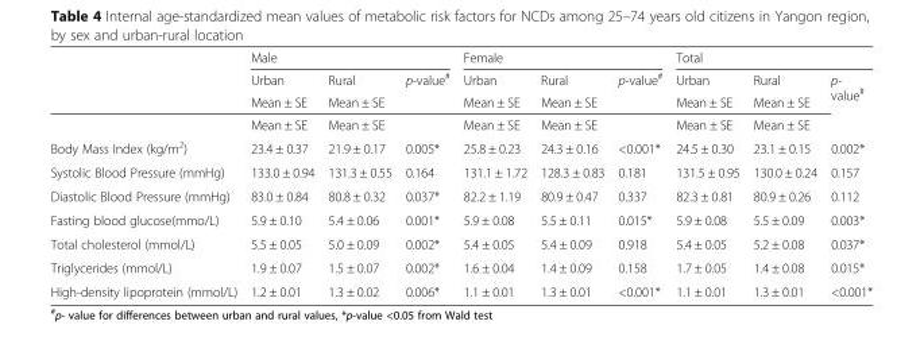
<table><thead><tr><td rowspan="3"></td><td colspan="3">Male</td><td colspan="3">Female</td><td colspan="3">Total</td></tr><tr><td rowspan="2">Urban Mean ± SE</td><td rowspan="2">Rural Mean ± SE</td><td rowspan="2">p-value<sup>#</sup></td><td rowspan="2">Urban Mean ± SE</td><td rowspan="2">Rural Mean ± SE</td><td rowspan="2">p-value<sup>#</sup></td><td rowspan="2">Urban Mean ± SE</td><td rowspan="2">Rural Mean ± SE</td><td rowspan="2">p- value<sup>#</sup></td></tr><tr></tr></thead><tbody><tr><td></td><td>Mean ± SE</td><td>Mean ± SE</td><td></td><td>Mean ± SE</td><td>Mean ± SE</td><td></td><td>Mean ± SE</td><td>Mean ± SE</td><td></td></tr><tr><td>Body Mass Index (kg/m<sup>2</sup>)</td><td>23.4 ± 0.37</td><td>21.9 ± 0.17</td><td>0.005*</td><td>25.8 ± 0.23</td><td>24.3 ± 0.16</td><td>&lt;0.001*</td><td>24.5 ± 0.30</td><td>23.1 ± 0.15</td><td>0.002*</td></tr><tr><td>Systolic Blood Pressure (mmHg)</td><td>133.0 ± 0.94</td><td>131.3 ± 0.55</td><td>0.164</td><td>131.1 ± 1.72</td><td>128.3 ± 0.83</td><td>0.181</td><td>131.5 ± 0.95</td><td>130.0 ± 0.24</td><td>0.157</td></tr><tr><td>Diastolic Blood Pressure (mmHg)</td><td>83.0 ± 0.84</td><td>80.8 ± 0.32</td><td>0.037*</td><td>82.2 ± 1.19</td><td>80.9 ± 0.47</td><td>0.337</td><td>82.3 ± 0.81</td><td>80.9 ± 0.26</td><td>0.112</td></tr><tr><td>Fasting blood glucose(mmo/L)</td><td>5.9 ± 0.10</td><td>5.4 ± 0.06</td><td>0.001*</td><td>5.9 ± 0.08</td><td>5.5 ± 0.11</td><td>0.015*</td><td>5.9 ± 0.08</td><td>5.5 ± 0.09</td><td>0.003*</td></tr><tr><td>Total cholesterol (mmol/L)</td><td>5.5 ± 0.05</td><td>5.0 ± 0.09</td><td>0.002*</td><td>5.4 ± 0.05</td><td>5.4 ± 0.09</td><td>0.918</td><td>5.4 ± 0.05</td><td>5.2 ± 0.08</td><td>0.037*</td></tr><tr><td>Triglycerides (mmol/L)</td><td>1.9 ± 0.07</td><td>1.5 ± 0.07</td><td>0.002*</td><td>1.6 ± 0.04</td><td>1.4 ± 0.09</td><td>0.158</td><td>1.7 ± 0.05</td><td>1.4 ± 0.08</td><td>0.015*</td></tr><tr><td>High-density lipoprotein (mmol/L)</td><td>1.2 ± 0.01</td><td>1.3 ± 0.02</td><td>0.006*</td><td>1.1 ± 0.01</td><td>1.3 ± 0.01</td><td>&lt;0.001*</td><td>1.1 ± 0.01</td><td>1.3 ± 0.01</td><td>&lt;0.001*</td></tr></tbody></table>